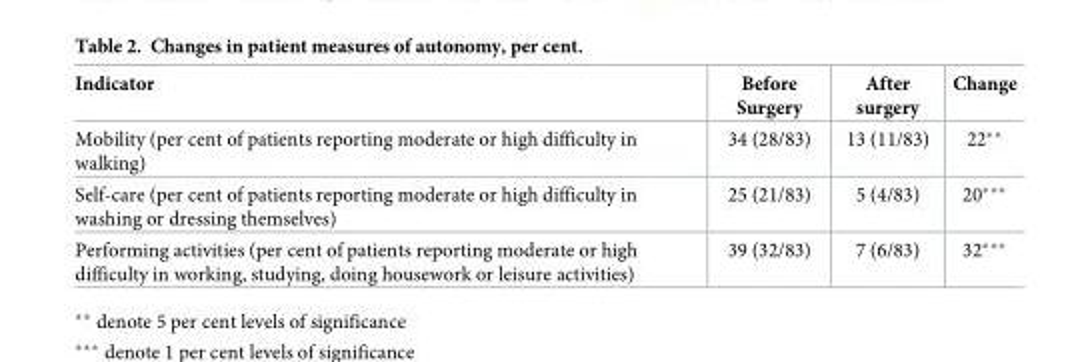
<table><thead><tr><td>Indicator</td><td>Before Surgery</td><td>After surgery</td><td>Change</td></tr></thead><tbody><tr><td>Mobility (per cent of patients reporting moderate or high difficulty in walking)</td><td>34 (28/83)</td><td>13 (11/83)</td><td>22**</td></tr><tr><td>Self-care (per cent of patients reporting moderate or high difficulty in washing or dressing themselves)</td><td>25 (21/83)</td><td>5 (4/83)</td><td>20***</td></tr><tr><td>Performing activities (per cent of patients reporting moderate or high difficulty in working, studying, doing housework or leisure activities)</td><td>39 (32/83)</td><td>7 (6/83)</td><td>32***</td></tr></tbody></table>